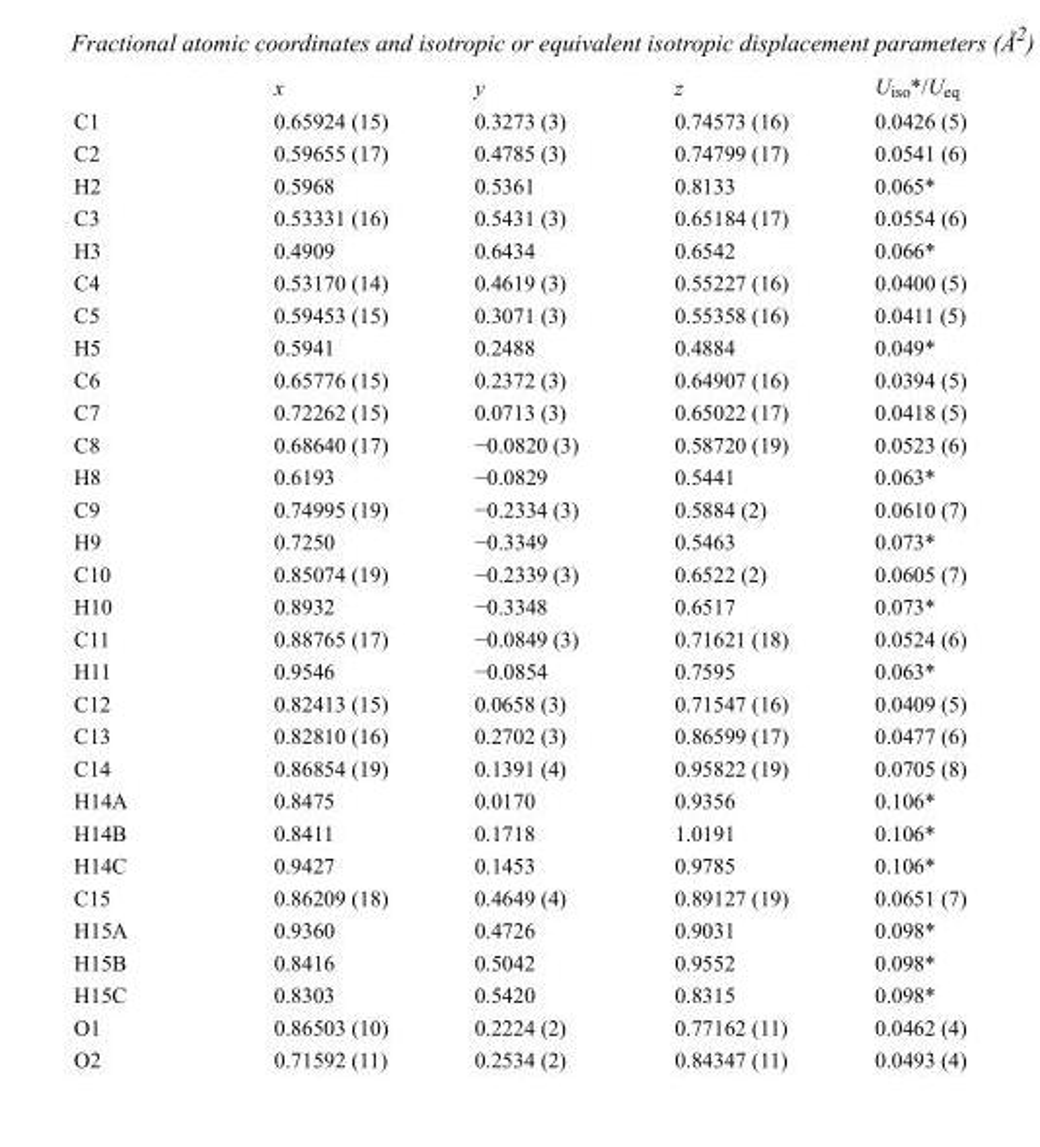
<table><thead><tr><td></td><td>x</td><td>y</td><td>z</td><td>U<sub>iso</sub>*/U<sub>eq</sub></td></tr></thead><tbody><tr><td>C1</td><td>0.65924 (15)</td><td>0.3273 (3)</td><td>0.74573 (16)</td><td>0.0426 (5)</td></tr><tr><td>C2</td><td>0.59655 (17)</td><td>0.4785 (3)</td><td>0.74799 (17)</td><td>0.0541 (6)</td></tr><tr><td>H2</td><td>0.5968</td><td>0.5361</td><td>0.8133</td><td>0.065*</td></tr><tr><td>C3</td><td>0.53331 (16)</td><td>0.5431 (3)</td><td>0.65184 (17)</td><td>0.0554 (6)</td></tr><tr><td>H3</td><td>0.4909</td><td>0.6434</td><td>0.6542</td><td>0.066*</td></tr><tr><td>C4</td><td>0.53170 (14)</td><td>0.4619 (3)</td><td>0.55227 (16)</td><td>0.0400 (5)</td></tr><tr><td>C5</td><td>0.59453 (15)</td><td>0.3071 (3)</td><td>0.55358 (16)</td><td>0.0411 (5)</td></tr><tr><td>H5</td><td>0.5941</td><td>0.2488</td><td>0.4884</td><td>0.049*</td></tr><tr><td>C6</td><td>0.65776 (15)</td><td>0.2372 (3)</td><td>0.64907 (16)</td><td>0.0394 (5)</td></tr><tr><td>C7</td><td>0.72262 (15)</td><td>0.0713 (3)</td><td>0.65022 (17)</td><td>0.0418 (5)</td></tr><tr><td>C8</td><td>0.68640 (17)</td><td>−0.0820 (3)</td><td>0.58720 (19)</td><td>0.0523 (6)</td></tr><tr><td>H8</td><td>0.6193</td><td>−0.0829</td><td>0.5441</td><td>0.063*</td></tr><tr><td>C9</td><td>0.74995 (19)</td><td>−0.2334 (3)</td><td>0.5884 (2)</td><td>0.0610 (7)</td></tr><tr><td>H9</td><td>0.7250</td><td>−0.3349</td><td>0.5463</td><td>0.073*</td></tr><tr><td>C10</td><td>0.85074 (19)</td><td>−0.2339 (3)</td><td>0.6522 (2)</td><td>0.0605 (7)</td></tr><tr><td>H10</td><td>0.8932</td><td>−0.3348</td><td>0.6517</td><td>0.073*</td></tr><tr><td>C11</td><td>0.88765 (17)</td><td>−0.0849 (3)</td><td>0.71621 (18)</td><td>0.0524 (6)</td></tr><tr><td>H11</td><td>0.9546</td><td>−0.0854</td><td>0.7595</td><td>0.063*</td></tr><tr><td>C12</td><td>0.82413 (15)</td><td>0.0658 (3)</td><td>0.71547 (16)</td><td>0.0409 (5)</td></tr><tr><td>C13</td><td>0.82810 (16)</td><td>0.2702 (3)</td><td>0.86599 (17)</td><td>0.0477 (6)</td></tr><tr><td>C14</td><td>0.86854 (19)</td><td>0.1391 (4)</td><td>0.95822 (19)</td><td>0.0705 (8)</td></tr><tr><td>H14A</td><td>0.8475</td><td>0.0170</td><td>0.9356</td><td>0.106*</td></tr><tr><td>H14B</td><td>0.8411</td><td>0.1718</td><td>1.0191</td><td>0.106*</td></tr><tr><td>H14C</td><td>0.9427</td><td>0.1453</td><td>0.9785</td><td>0.106*</td></tr><tr><td>C15</td><td>0.86209 (18)</td><td>0.4649 (4)</td><td>0.89127 (19)</td><td>0.0651 (7)</td></tr><tr><td>H15A</td><td>0.9360</td><td>0.4726</td><td>0.9031</td><td>0.098*</td></tr><tr><td>H15B</td><td>0.8416</td><td>0.5042</td><td>0.9552</td><td>0.098*</td></tr><tr><td>H15C</td><td>0.8303</td><td>0.5420</td><td>0.8315</td><td>0.098*</td></tr><tr><td>O1</td><td>0.86503 (10)</td><td>0.2224 (2)</td><td>0.77162 (11)</td><td>0.0462 (4)</td></tr><tr><td>O2</td><td>0.71592 (11)</td><td>0.2534 (2)</td><td>0.84347 (11)</td><td>0.0493 (4)</td></tr></tbody></table>